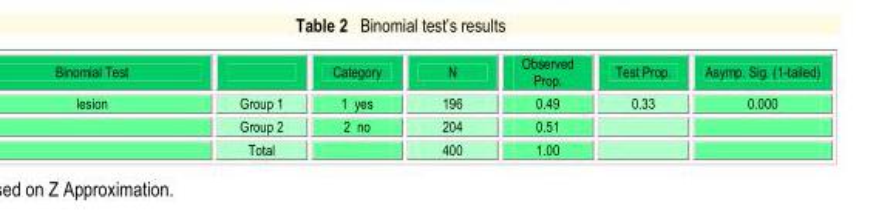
<table><thead><tr><td>Binomial Test</td><td></td><td>Category</td><td>N</td><td>Observed Prop.</td><td>Test Prop.</td><td>Asymp. Sig. (1-tailed)</td></tr></thead><tbody><tr><td rowspan="3">lesion</td><td>Group 1</td><td>1 yes</td><td>196</td><td>0.49</td><td>0.33</td><td>0.000</td></tr><tr><td>Group 2</td><td>2 no</td><td>204</td><td>0.51</td><td></td><td></td></tr><tr><td>Total</td><td></td><td>400</td><td>1.00</td><td></td><td></td></tr></tbody></table>